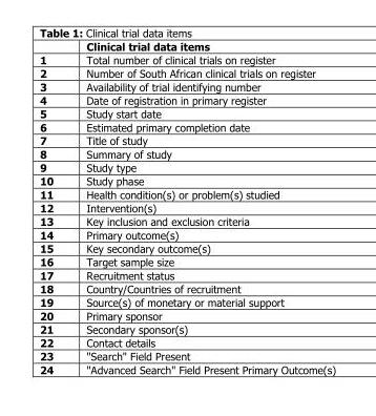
<table><thead><tr><td></td><td>Clinical trial data items</td></tr></thead><tbody><tr><td>1</td><td>Total number of clinical trials on register</td></tr><tr><td>2</td><td>Number of South African clinical trials on register</td></tr><tr><td>3</td><td>Availability of trial identifying number</td></tr><tr><td>4</td><td>Date of registration in primary register</td></tr><tr><td>5</td><td>Study start date</td></tr><tr><td>6</td><td>Estimated primary completion date</td></tr><tr><td>7</td><td>Title of study</td></tr><tr><td>8</td><td>Summary of study</td></tr><tr><td>9</td><td>Study type</td></tr><tr><td>10</td><td>Study phase</td></tr><tr><td>11</td><td>Health condition(s) or problem(s) studied</td></tr><tr><td>12</td><td>Intervention(s)</td></tr><tr><td>13</td><td>Key inclusion and exclusion criteria</td></tr><tr><td>14</td><td>Primary outcome(s)</td></tr><tr><td>15</td><td>Key secondary outcome(s)</td></tr><tr><td>16</td><td>Target sample size</td></tr><tr><td>17</td><td>Recruitment status</td></tr><tr><td>18</td><td>Country/Countries of recruitment</td></tr><tr><td>19</td><td>Source(s) of monetary or material support</td></tr><tr><td>20</td><td>Primary sponsor</td></tr><tr><td>21</td><td>Secondary sponsor(s)</td></tr><tr><td>22</td><td>Contact details</td></tr><tr><td>23</td><td>&quot;Search&quot; Field Present</td></tr><tr><td>24</td><td>&quot;Advanced Search&quot; Field Present Primary Outcome(s)</td></tr></tbody></table>